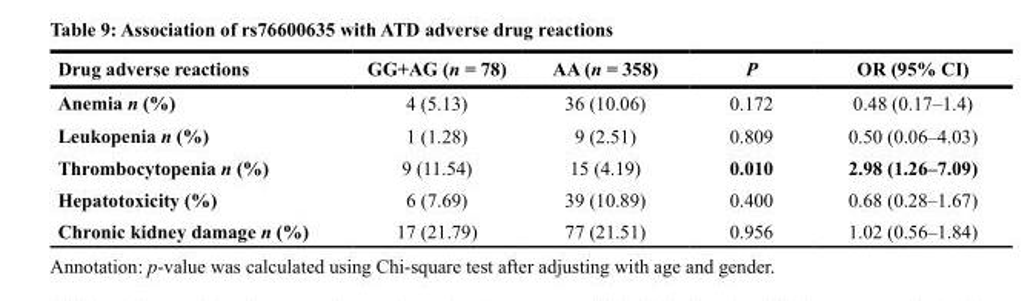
<table><thead><tr><td>Drug adverse reactions</td><td>GG+AG (n = 78)</td><td>AA (n = 358)</td><td>P</td><td>OR (95% CI)</td></tr></thead><tbody><tr><td>Anemia n (%)</td><td>4 (5.13)</td><td>36 (10.06)</td><td>0.172</td><td>0.48 (0.17–1.4)</td></tr><tr><td>Leukopenia n (%)</td><td>1 (1.28)</td><td>9 (2.51)</td><td>0.809</td><td>0.50 (0.06–4.03)</td></tr><tr><td>Thrombocytopenia n (%)</td><td>9 (11.54)</td><td>15 (4.19)</td><td>0.010</td><td>2.98 (1.26–7.09)</td></tr><tr><td>Hepatotoxicity (%)</td><td>6 (7.69)</td><td>39 (10.89)</td><td>0.400</td><td>0.68 (0.28–1.67)</td></tr><tr><td>Chronic kidney damage n (%)</td><td>17 (21.79)</td><td>77 (21.51)</td><td>0.956</td><td>1.02 (0.56–1.84)</td></tr></tbody></table>